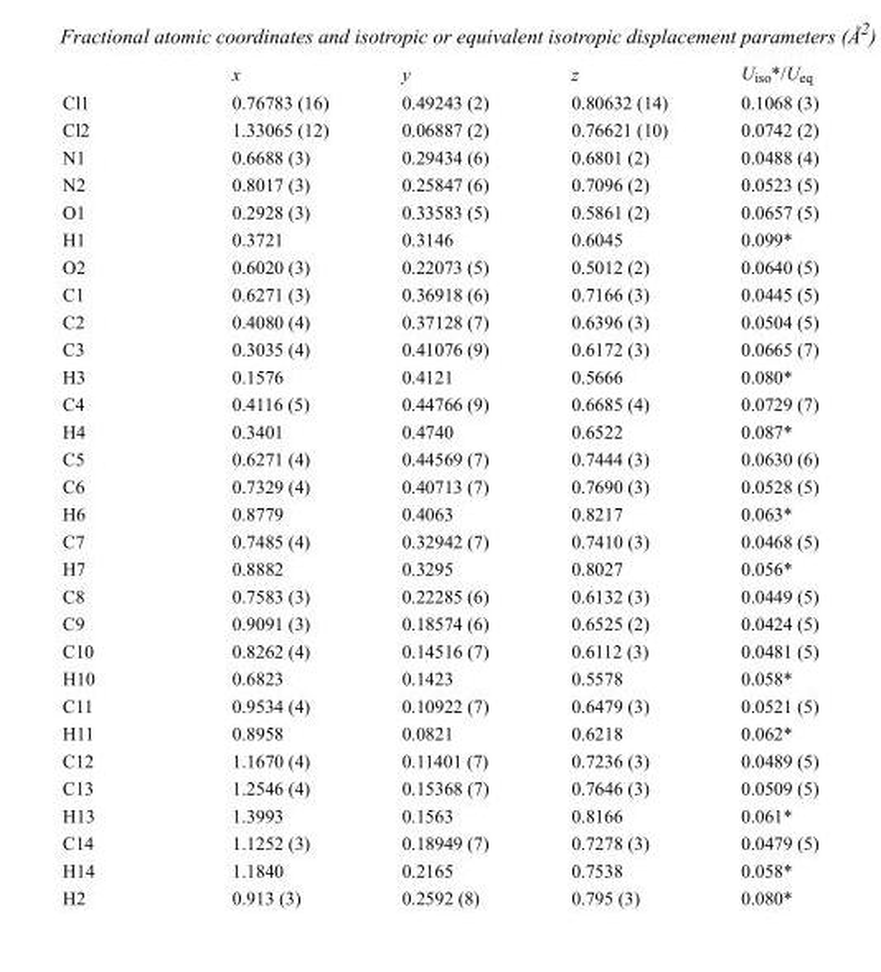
<table><thead><tr><td></td><td>x</td><td>y</td><td>z</td><td>U<sub>iso</sub>*/U<sub>eq</sub></td></tr></thead><tbody><tr><td>Cl1</td><td>0.76783 (16)</td><td>0.49243 (2)</td><td>0.80632 (14)</td><td>0.1068 (3)</td></tr><tr><td>Cl2</td><td>1.33065 (12)</td><td>0.06887 (2)</td><td>0.76621 (10)</td><td>0.0742 (2)</td></tr><tr><td>N1</td><td>0.6688 (3)</td><td>0.29434 (6)</td><td>0.6801 (2)</td><td>0.0488 (4)</td></tr><tr><td>N2</td><td>0.8017 (3)</td><td>0.25847 (6)</td><td>0.7096 (2)</td><td>0.0523 (5)</td></tr><tr><td>O1</td><td>0.2928 (3)</td><td>0.33583 (5)</td><td>0.5861 (2)</td><td>0.0657 (5)</td></tr><tr><td>H1</td><td>0.3721</td><td>0.3146</td><td>0.6045</td><td>0.099*</td></tr><tr><td>O2</td><td>0.6020 (3)</td><td>0.22073 (5)</td><td>0.5012 (2)</td><td>0.0640 (5)</td></tr><tr><td>C1</td><td>0.6271 (3)</td><td>0.36918 (6)</td><td>0.7166 (3)</td><td>0.0445 (5)</td></tr><tr><td>C2</td><td>0.4080 (4)</td><td>0.37128 (7)</td><td>0.6396 (3)</td><td>0.0504 (5)</td></tr><tr><td>C3</td><td>0.3035 (4)</td><td>0.41076 (9)</td><td>0.6172 (3)</td><td>0.0665 (7)</td></tr><tr><td>H3</td><td>0.1576</td><td>0.4121</td><td>0.5666</td><td>0.080*</td></tr><tr><td>C4</td><td>0.4116 (5)</td><td>0.44766 (9)</td><td>0.6685 (4)</td><td>0.0729 (7)</td></tr><tr><td>H4</td><td>0.3401</td><td>0.4740</td><td>0.6522</td><td>0.087*</td></tr><tr><td>C5</td><td>0.6271 (4)</td><td>0.44569 (7)</td><td>0.7444 (3)</td><td>0.0630 (6)</td></tr><tr><td>C6</td><td>0.7329 (4)</td><td>0.40713 (7)</td><td>0.7690 (3)</td><td>0.0528 (5)</td></tr><tr><td>H6</td><td>0.8779</td><td>0.4063</td><td>0.8217</td><td>0.063*</td></tr><tr><td>C7</td><td>0.7485 (4)</td><td>0.32942 (7)</td><td>0.7410 (3)</td><td>0.0468 (5)</td></tr><tr><td>H7</td><td>0.8882</td><td>0.3295</td><td>0.8027</td><td>0.056*</td></tr><tr><td>C8</td><td>0.7583 (3)</td><td>0.22285 (6)</td><td>0.6132 (3)</td><td>0.0449 (5)</td></tr><tr><td>C9</td><td>0.9091 (3)</td><td>0.18574 (6)</td><td>0.6525 (2)</td><td>0.0424 (5)</td></tr><tr><td>C10</td><td>0.8262 (4)</td><td>0.14516 (7)</td><td>0.6112 (3)</td><td>0.0481 (5)</td></tr><tr><td>H10</td><td>0.6823</td><td>0.1423</td><td>0.5578</td><td>0.058*</td></tr><tr><td>C11</td><td>0.9534 (4)</td><td>0.10922 (7)</td><td>0.6479 (3)</td><td>0.0521 (5)</td></tr><tr><td>H11</td><td>0.8958</td><td>0.0821</td><td>0.6218</td><td>0.062*</td></tr><tr><td>C12</td><td>1.1670 (4)</td><td>0.11401 (7)</td><td>0.7236 (3)</td><td>0.0489 (5)</td></tr><tr><td>C13</td><td>1.2546 (4)</td><td>0.15368 (7)</td><td>0.7646 (3)</td><td>0.0509 (5)</td></tr><tr><td>H13</td><td>1.3993</td><td>0.1563</td><td>0.8166</td><td>0.061*</td></tr><tr><td>C14</td><td>1.1252 (3)</td><td>0.18949 (7)</td><td>0.7278 (3)</td><td>0.0479 (5)</td></tr><tr><td>H14</td><td>1.1840</td><td>0.2165</td><td>0.7538</td><td>0.058*</td></tr><tr><td>H2</td><td>0.913 (3)</td><td>0.2592 (8)</td><td>0.795 (3)</td><td>0.080*</td></tr></tbody></table>